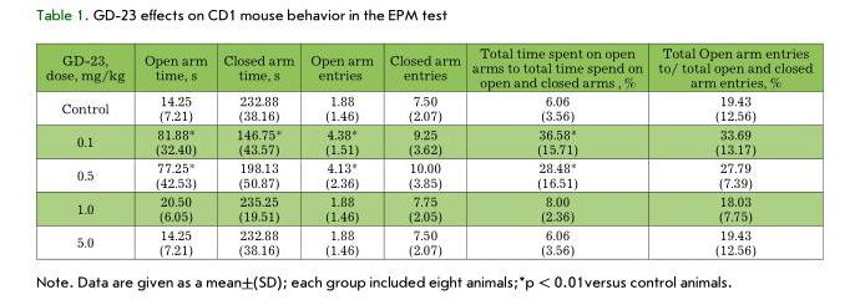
<table><thead><tr><td>GD-23, dose, mg/kg</td><td>Open arm time, s</td><td>Closed arm time, s</td><td>Open arm entries</td><td>Closed arm entries</td><td>Total time spent on open arms to total time spend on open and closed arms , %</td><td>Total Open arm entries to/ total open and closed arm entries, %</td></tr></thead><tbody><tr><td>Control</td><td>14.25 (7.21)</td><td>232.88 (38.16)</td><td>1.88 (1.46)</td><td>7.50 (2.07)</td><td>6.06 (3.56)</td><td>19.43 (12.56)</td></tr><tr><td>0.1</td><td>81.88* (32.40)</td><td>146.75* (43.57)</td><td>4.38* (1.51)</td><td>9.25 (3.62)</td><td>36.58* (15.71)</td><td>33.69 (13.17)</td></tr><tr><td>0.5</td><td>77.25* (42.53)</td><td>198.13 (50.87)</td><td>4.13* (2.36)</td><td>10.00 (3.85)</td><td>28.48* (16.51)</td><td>27.79 (7.39)</td></tr><tr><td>1.0</td><td>20.50 (6.05)</td><td>235.25 (19.51)</td><td>1.88 (1.46)</td><td>7.75 (2.05)</td><td>8.00 (2.36)</td><td>18.03 (7.75)</td></tr><tr><td>5.0</td><td>14.25 (7.21)</td><td>232.88 (38.16)</td><td>1.88 (1.46)</td><td>7.50 (2.07)</td><td>6.06 (3.56)</td><td>19.43 (12.56)</td></tr></tbody></table>